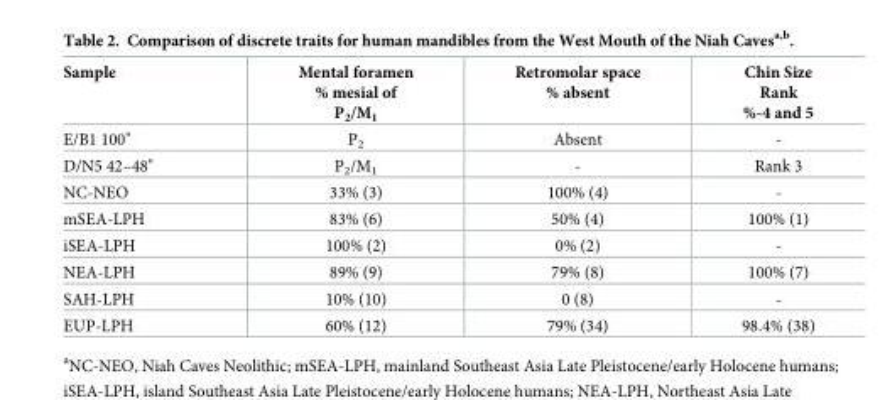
<table><thead><tr><td>Sample</td><td>Mental foramen % mesial of P<sub>2</sub>/M<sub>1</sub></td><td>Retromolar space % absent</td><td>Chin Size Rank %-4 and 5</td></tr></thead><tbody><tr><td>E/B1 100&quot;</td><td>P<sub>2</sub></td><td>Absent</td><td>-</td></tr><tr><td>D/N5 42–48&quot;</td><td>P<sub>2</sub>/M<sub>1</sub></td><td>-</td><td>Rank 3</td></tr><tr><td>NC-NEO</td><td>33% (3)</td><td>100% (4)</td><td>-</td></tr><tr><td>mSEA-LPH</td><td>83% (6)</td><td>50% (4)</td><td>100% (1)</td></tr><tr><td>iSEA-LPH</td><td>100% (2)</td><td>0% (2)</td><td>-</td></tr><tr><td>NEA-LPH</td><td>89% (9)</td><td>79% (8)</td><td>100% (7)</td></tr><tr><td>SAH-LPH</td><td>10% (10)</td><td>0 (8)</td><td>-</td></tr><tr><td>EUP-LPH</td><td>60% (12)</td><td>79% (34)</td><td>98.4% (38)</td></tr></tbody></table>